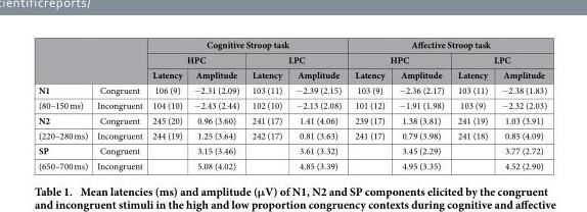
<table><thead><tr><td rowspan="3"></td><td rowspan="3"></td><td colspan="4">Cognitive Stroop task</td><td colspan="4">Affective Stroop task</td></tr><tr><td colspan="2">HPC</td><td colspan="2">LPC</td><td colspan="2">HPC</td><td colspan="2">LPC</td></tr><tr><td>Latency</td><td>Amplitude</td><td>Latency</td><td>Amplitude</td><td>Latency</td><td>Amplitude</td><td>Latency</td><td>Amplitude</td></tr></thead><tbody><tr><td>N1</td><td>Congruent</td><td>106 (9)</td><td>− 2.31 (2.09)</td><td>103 (11)</td><td>− 2.39 (2.15)</td><td>103 (9)</td><td>− 2.36 (2.17)</td><td>103 (11)</td><td>− 2.38 (1.83)</td></tr><tr><td>(80–150 ms)</td><td>Incongruent</td><td>104 (10)</td><td>− 2.43 (2.44)</td><td>102 (10)</td><td>− 2.13 (2.08)</td><td>101 (12)</td><td>− 1.91 (1.98)</td><td>103 (9)</td><td>− 2.32 (2.03)</td></tr><tr><td>N2</td><td>Congruent</td><td>245 (20)</td><td>0.96 (3.60)</td><td>241 (17)</td><td>1.41 (4.06)</td><td>239 (17)</td><td>1.38 (3.81)</td><td>241 (19)</td><td>1.03 (3.91)</td></tr><tr><td>(220–280 ms)</td><td>Incongruent</td><td>244 (19)</td><td>1.25 (3.64)</td><td>242 (17)</td><td>0.81 (3.63)</td><td>241 (17)</td><td>0.79 (3.98)</td><td>241 (18)</td><td>0.85 (4.09)</td></tr><tr><td>SP</td><td>Congruent</td><td></td><td>3.15 (3.46)</td><td></td><td>3.61 (3.32)</td><td></td><td>3.45 (2.29)</td><td></td><td>3.77 (2.72)</td></tr><tr><td>(650–700 ms)</td><td>Incongruent</td><td></td><td>5.08 (4.02)</td><td></td><td>4.85 (3.39)</td><td></td><td>4.95 (3.35)</td><td></td><td>4.52 (2.90)</td></tr></tbody></table>